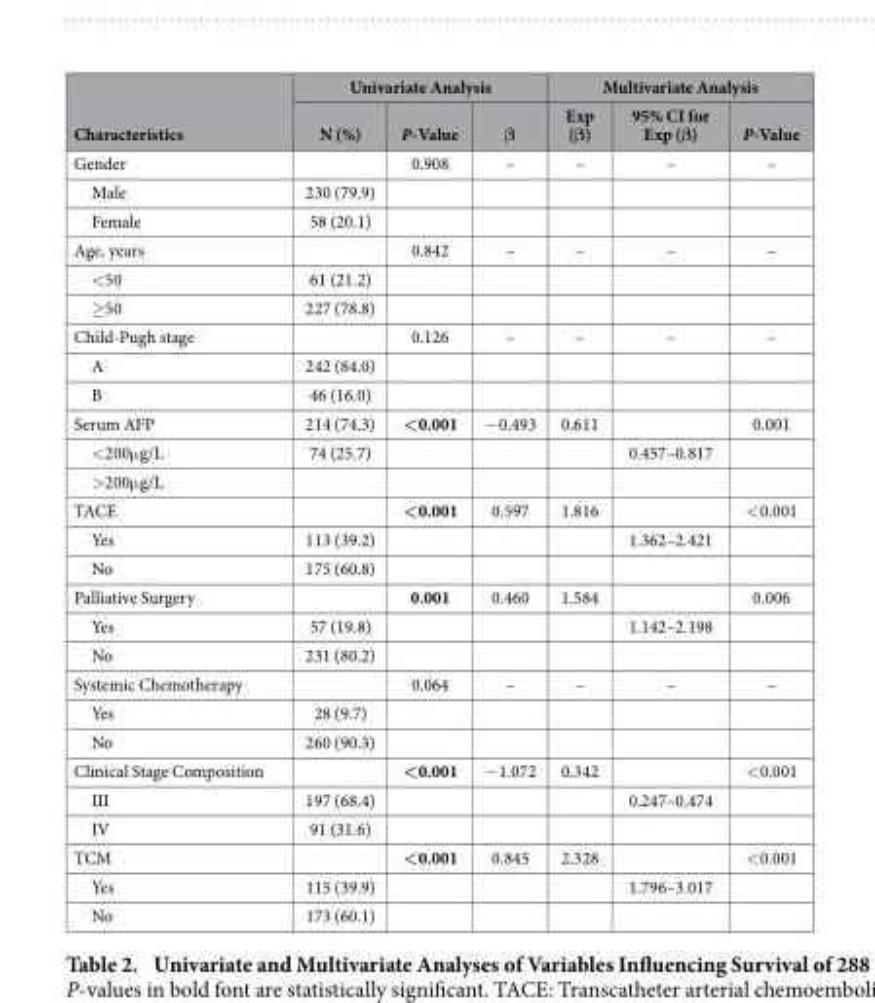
<table><thead><tr><td rowspan="2">Characteristics</td><td colspan="3">Univariate Analysis</td><td colspan="3">Multivariate Analysis</td></tr><tr><td>N (%)</td><td>P-Value</td><td>β</td><td>Exp (β)</td><td>95% CI for Exp (β)</td><td>P-Value</td></tr></thead><tbody><tr><td>Gender</td><td></td><td>0.908</td><td>–</td><td>–</td><td>–</td><td>–</td></tr><tr><td>Male</td><td>230 (79.9)</td><td></td><td></td><td></td><td></td><td></td></tr><tr><td>Female</td><td>58 (20.1)</td><td></td><td></td><td></td><td></td><td></td></tr><tr><td>Age, years</td><td></td><td>0.842</td><td>–</td><td>–</td><td>–</td><td>–</td></tr><tr><td>&lt;50</td><td>61 (21.2)</td><td></td><td></td><td></td><td></td><td></td></tr><tr><td>≥50</td><td>227 (78.8)</td><td></td><td></td><td></td><td></td><td></td></tr><tr><td>Child-Pugh stage</td><td></td><td>0.126</td><td>–</td><td>–</td><td>–</td><td>–</td></tr><tr><td>A</td><td>242 (84.0)</td><td></td><td></td><td></td><td></td><td></td></tr><tr><td>B</td><td>46 (16.0)</td><td></td><td></td><td></td><td></td><td></td></tr><tr><td>Serum AFP</td><td>214 (74.3)</td><td>&lt;0.001</td><td>− 0.493</td><td>0.611</td><td></td><td>0.001</td></tr><tr><td>&lt;200μ g/L</td><td>74 (25.7)</td><td></td><td></td><td></td><td>0.457–0.817</td><td></td></tr><tr><td colspan="7">&gt;200μ g/L</td></tr><tr><td>TACE</td><td></td><td>&lt;0.001</td><td>0.597</td><td>1.816</td><td></td><td>&lt; 0.001</td></tr><tr><td>Yes</td><td>113 (39.2)</td><td></td><td></td><td></td><td>1.362–2.421</td><td></td></tr><tr><td>No</td><td>175 (60.8)</td><td></td><td></td><td></td><td></td><td></td></tr><tr><td>Palliative Surgery</td><td></td><td>0.001</td><td>0.460</td><td>1.584</td><td></td><td>0.006</td></tr><tr><td>Yes</td><td>57 (19.8)</td><td></td><td></td><td></td><td>1.142–2.198</td><td></td></tr><tr><td>No</td><td>231 (80.2)</td><td></td><td></td><td></td><td></td><td></td></tr><tr><td>Systemic Chemotherapy</td><td></td><td>0.064</td><td>–</td><td>–</td><td>–</td><td>–</td></tr><tr><td>Yes</td><td>28 (9.7)</td><td></td><td></td><td></td><td></td><td></td></tr><tr><td>No</td><td>260 (90.3)</td><td></td><td></td><td></td><td></td><td></td></tr><tr><td>Clinical Stage Composition</td><td></td><td>&lt;0.001</td><td>− 1.072</td><td>0.342</td><td></td><td>&lt; 0.001</td></tr><tr><td>III</td><td>197 (68.4)</td><td></td><td></td><td></td><td>0.247–0.474</td><td></td></tr><tr><td>IV</td><td>91 (31.6)</td><td></td><td></td><td></td><td></td><td></td></tr><tr><td>TCM</td><td></td><td>&lt;0.001</td><td>0.845</td><td>2.328</td><td></td><td>&lt; 0.001</td></tr><tr><td>Yes</td><td>115 (39.9)</td><td></td><td></td><td></td><td>1.796–3.017</td><td></td></tr><tr><td>No</td><td>173 (60.1)</td><td></td><td></td><td></td><td></td><td></td></tr></tbody></table>